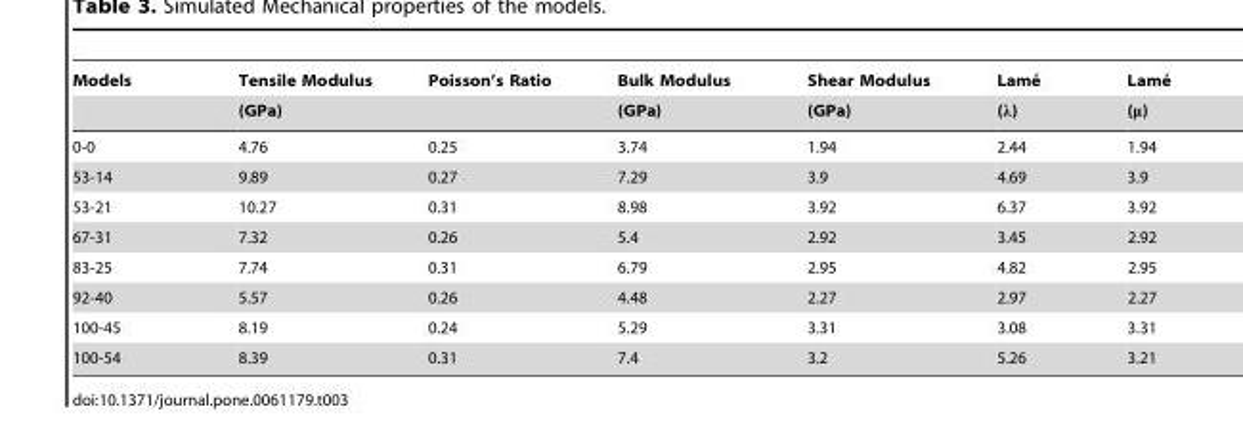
<table><thead><tr><td rowspan="2">Models</td><td rowspan="2">Tensile Modulus (GPa)</td><td rowspan="2">Poisson’s Ratio</td><td rowspan="2">Bulk Modulus (GPa)</td><td rowspan="2">Shear Modulus (GPa)</td><td rowspan="2">Lame´ (l)</td><td rowspan="2">Lame´ (m)</td></tr><tr></tr></thead><tbody><tr><td>0-0</td><td>4.76</td><td>0.25</td><td>3.74</td><td>1.94</td><td>2.44</td><td>1.94</td></tr><tr><td>53-14</td><td>9.89</td><td>0.27</td><td>7.29</td><td>3.9</td><td>4.69</td><td>3.9</td></tr><tr><td>53-21</td><td>10.27</td><td>0.31</td><td>8.98</td><td>3.92</td><td>6.37</td><td>3.92</td></tr><tr><td>67-31</td><td>7.32</td><td>0.26</td><td>5.4</td><td>2.92</td><td>3.45</td><td>2.92</td></tr><tr><td>83-25</td><td>7.74</td><td>0.31</td><td>6.79</td><td>2.95</td><td>4.82</td><td>2.95</td></tr><tr><td>92-40</td><td>5.57</td><td>0.26</td><td>4.48</td><td>2.27</td><td>2.97</td><td>2.27</td></tr><tr><td>100-45</td><td>8.19</td><td>0.24</td><td>5.29</td><td>3.31</td><td>3.08</td><td>3.31</td></tr><tr><td>100-54</td><td>8.39</td><td>0.31</td><td>7.4</td><td>3.2</td><td>5.26</td><td>3.21</td></tr></tbody></table>